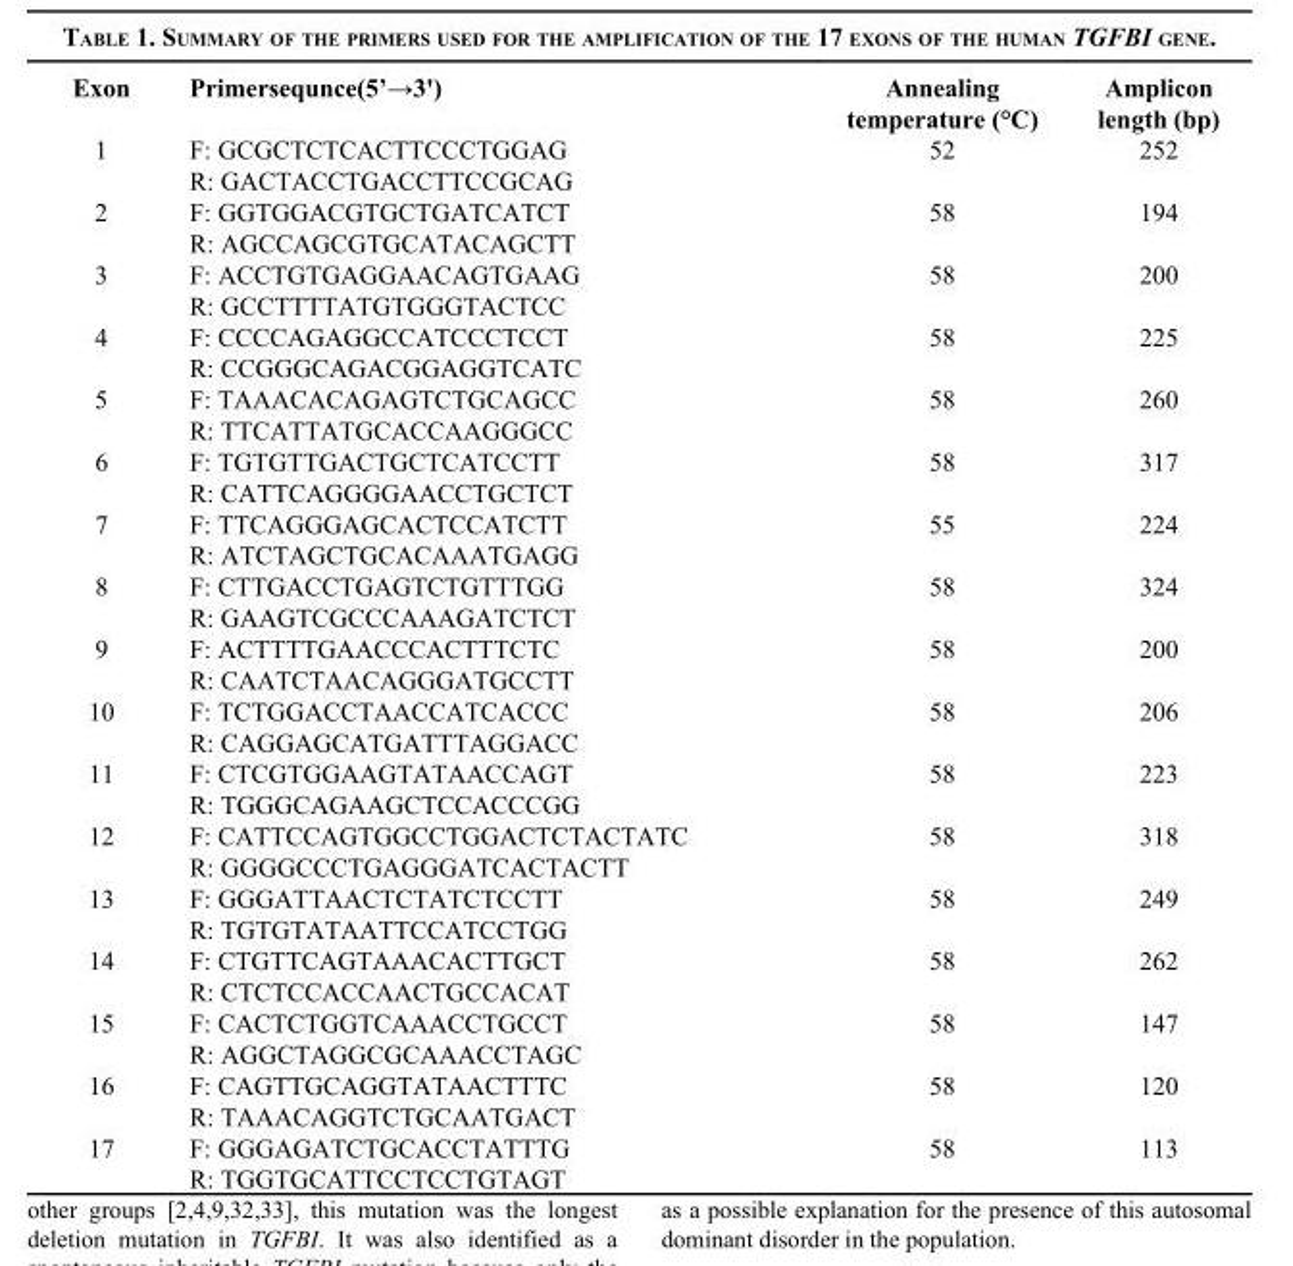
<table><thead><tr><td>Exon</td><td>Primersequnce(5’→3&#x27;)</td><td>Annealing temperature (°C)</td><td>Amplicon length (bp)</td></tr></thead><tbody><tr><td rowspan="2">1</td><td>F: GCGCTCTCACTTCCCTGGAG</td><td>52</td><td>252</td></tr><tr><td>R: GACTACCTGACCTTCCGCAG</td><td></td><td></td></tr><tr><td rowspan="2">2</td><td>F: GGTGGACGTGCTGATCATCT</td><td>58</td><td>194</td></tr><tr><td>R: AGCCAGCGTGCATACAGCTT</td><td></td><td></td></tr><tr><td rowspan="2">3</td><td>F: ACCTGTGAGGAACAGTGAAG</td><td>58</td><td>200</td></tr><tr><td>R: GCCTTTTATGTGGGTACTCC</td><td></td><td></td></tr><tr><td rowspan="2">4</td><td>F: CCCCAGAGGCCATCCCTCCT</td><td>58</td><td>225</td></tr><tr><td>R: CCGGGCAGACGGAGGTCATC</td><td></td><td></td></tr><tr><td rowspan="2">5</td><td>F: TAAACACAGAGTCTGCAGCC</td><td>58</td><td>260</td></tr><tr><td>R: TTCATTATGCACCAAGGGCC</td><td></td><td></td></tr><tr><td rowspan="2">6</td><td>F: TGTGTTGACTGCTCATCCTT</td><td>58</td><td>317</td></tr><tr><td>R: CATTCAGGGGAACCTGCTCT</td><td></td><td></td></tr><tr><td rowspan="2">7</td><td>F: TTCAGGGAGCACTCCATCTT</td><td>55</td><td>224</td></tr><tr><td>R: ATCTAGCTGCACAAATGAGG</td><td></td><td></td></tr><tr><td rowspan="2">8</td><td>F: CTTGACCTGAGTCTGTTTGG</td><td>58</td><td>324</td></tr><tr><td>R: GAAGTCGCCCAAAGATCTCT</td><td></td><td></td></tr><tr><td rowspan="2">9</td><td>F: ACTTTTGAACCCACTTTCTC</td><td>58</td><td>200</td></tr><tr><td>R: CAATCTAACAGGGATGCCTT</td><td></td><td></td></tr><tr><td rowspan="2">10</td><td>F: TCTGGACCTAACCATCACCC</td><td>58</td><td>206</td></tr><tr><td>R: CAGGAGCATGATTTAGGACC</td><td></td><td></td></tr><tr><td rowspan="2">11</td><td>F: CTCGTGGAAGTATAACCAGT</td><td>58</td><td>223</td></tr><tr><td>R: TGGGCAGAAGCTCCACCCGG</td><td></td><td></td></tr><tr><td rowspan="2">12</td><td>F: CATTCCAGTGGCCTGGACTCTACTATC</td><td>58</td><td>318</td></tr><tr><td>R: GGGGCCCTGAGGGATCACTACTT</td><td></td><td></td></tr><tr><td rowspan="2">13</td><td>F: GGGATTAACTCTATCTCCTT</td><td>58</td><td>249</td></tr><tr><td>R: TGTGTATAATTCCATCCTGG</td><td></td><td></td></tr><tr><td rowspan="2">14</td><td>F: CTGTTCAGTAAACACTTGCT</td><td>58</td><td>262</td></tr><tr><td>R: CTCTCCACCAACTGCCACAT</td><td></td><td></td></tr><tr><td rowspan="2">15</td><td>F: CACTCTGGTCAAACCTGCCT</td><td>58</td><td>147</td></tr><tr><td>R: AGGCTAGGCGCAAACCTAGC</td><td></td><td></td></tr><tr><td rowspan="2">16</td><td>F: CAGTTGCAGGTATAACTTTC</td><td>58</td><td>120</td></tr><tr><td>R: TAAACAGGTCTGCAATGACT</td><td></td><td></td></tr><tr><td rowspan="2">17</td><td>F: GGGAGATCTGCACCTATTTG</td><td>58</td><td>113</td></tr><tr><td>R: TGGTGCATTCCTCCTGTAGT</td><td></td><td></td></tr></tbody></table>